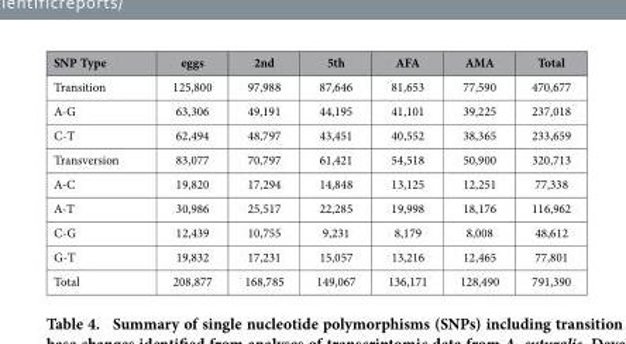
<table><thead><tr><td>SNP Type</td><td>eggs</td><td>2nd</td><td>5th</td><td>AFA</td><td>AMA</td><td>Total</td></tr></thead><tbody><tr><td>Transition</td><td>125,800</td><td>97,988</td><td>87,646</td><td>81,653</td><td>77,590</td><td>470,677</td></tr><tr><td>A-G</td><td>63,306</td><td>49,191</td><td>44,195</td><td>41,101</td><td>39,225</td><td>237,018</td></tr><tr><td>C-T</td><td>62,494</td><td>48,797</td><td>43,451</td><td>40,552</td><td>38,365</td><td>233,659</td></tr><tr><td>Transversion</td><td>83,077</td><td>70,797</td><td>61,421</td><td>54,518</td><td>50,900</td><td>320,713</td></tr><tr><td>A-C</td><td>19,820</td><td>17,294</td><td>14,848</td><td>13,125</td><td>12,251</td><td>77,338</td></tr><tr><td>A-T</td><td>30,986</td><td>25,517</td><td>22,285</td><td>19,998</td><td>18,176</td><td>116,962</td></tr><tr><td>C-G</td><td>12,439</td><td>10,755</td><td>9,231</td><td>8,179</td><td>8,008</td><td>48,612</td></tr><tr><td>G-T</td><td>19,832</td><td>17,231</td><td>15,057</td><td>13,216</td><td>12,465</td><td>77,801</td></tr><tr><td>Total</td><td>208,877</td><td>168,785</td><td>149,067</td><td>136,171</td><td>128,490</td><td>791,390</td></tr></tbody></table>